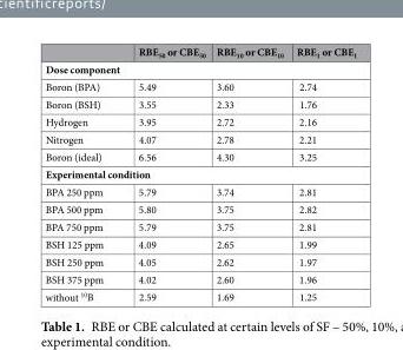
<table><thead><tr><td></td><td>RBE<sub>50</sub> or CBE<sub>50</sub></td><td>RBE<sub>10</sub> or CBE<sub>10</sub></td><td>RBE<sub>1</sub> or CBE<sub>1</sub></td></tr></thead><tbody><tr><td colspan="4">Dose component</td></tr><tr><td>Boron (BPA)</td><td>5.49</td><td>3.60</td><td>2.74</td></tr><tr><td>Boron (BSH)</td><td>3.55</td><td>2.33</td><td>1.76</td></tr><tr><td>Hydrogen</td><td>3.95</td><td>2.72</td><td>2.16</td></tr><tr><td>Nitrogen</td><td>4.07</td><td>2.78</td><td>2.21</td></tr><tr><td>Boron (ideal)</td><td>6.56</td><td>4.30</td><td>3.25</td></tr><tr><td colspan="4">Experimental condition</td></tr><tr><td>BPA 250 ppm</td><td>5.79</td><td>3.74</td><td>2.81</td></tr><tr><td>BPA 500 ppm</td><td>5.80</td><td>3.75</td><td>2.82</td></tr><tr><td>BPA 750 ppm</td><td>5.79</td><td>3.75</td><td>2.81</td></tr><tr><td>BSH 125 ppm</td><td>4.09</td><td>2.65</td><td>1.99</td></tr><tr><td>BSH 250 ppm</td><td>4.05</td><td>2.62</td><td>1.97</td></tr><tr><td>BSH 375 ppm</td><td>4.02</td><td>2.60</td><td>1.96</td></tr><tr><td>without <sup>10</sup>B</td><td>2.59</td><td>1.69</td><td>1.25</td></tr></tbody></table>